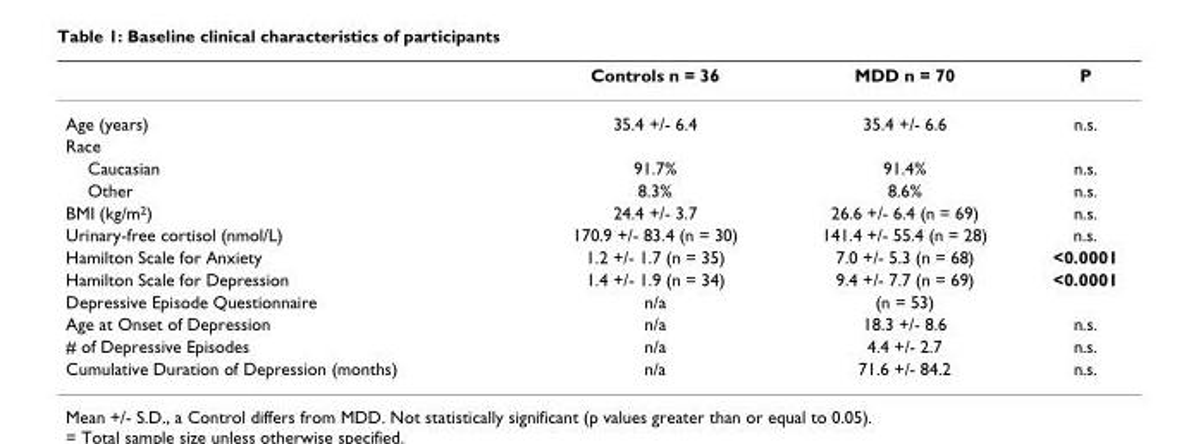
<table><thead><tr><td></td><td>Controls n = 36</td><td>MDD n = 70</td><td>P</td></tr></thead><tbody><tr><td>Age (years)</td><td>35.4 +/- 6.4</td><td>35.4 +/- 6.6</td><td>n.s.</td></tr><tr><td colspan="4">Race</td></tr><tr><td>Caucasian</td><td>91.7%</td><td>91.4%</td><td>n.s.</td></tr><tr><td>Other</td><td>8.3%</td><td>8.6%</td><td>n.s.</td></tr><tr><td>BMI (kg/m<sup>2</sup>)</td><td>24.4 +/- 3.7</td><td>26.6 +/- 6.4 (n = 69)</td><td>n.s.</td></tr><tr><td>Urinary-free cortisol (nmol/L)</td><td>170.9 +/- 83.4 (n = 30)</td><td>141.4 +/- 55.4 (n = 28)</td><td>n.s.</td></tr><tr><td>Hamilton Scale for Anxiety</td><td>1.2 +/- 1.7 (n = 35)</td><td>7.0 +/- 5.3 (n = 68)</td><td>&lt;0.0001</td></tr><tr><td>Hamilton Scale for Depression</td><td>1.4 +/- 1.9 (n = 34)</td><td>9.4 +/- 7.7 (n = 69)</td><td>&lt;0.0001</td></tr><tr><td>Depressive Episode Questionnaire</td><td>n/a</td><td>(n = 53)</td><td></td></tr><tr><td>Age at Onset of Depression</td><td>n/a</td><td>18.3 +/- 8.6</td><td>n.s.</td></tr><tr><td># of Depressive Episodes</td><td>n/a</td><td>4.4 +/- 2.7</td><td>n.s.</td></tr><tr><td>Cumulative Duration of Depression (months)</td><td>n/a</td><td>71.6 +/- 84.2</td><td>n.s.</td></tr></tbody></table>